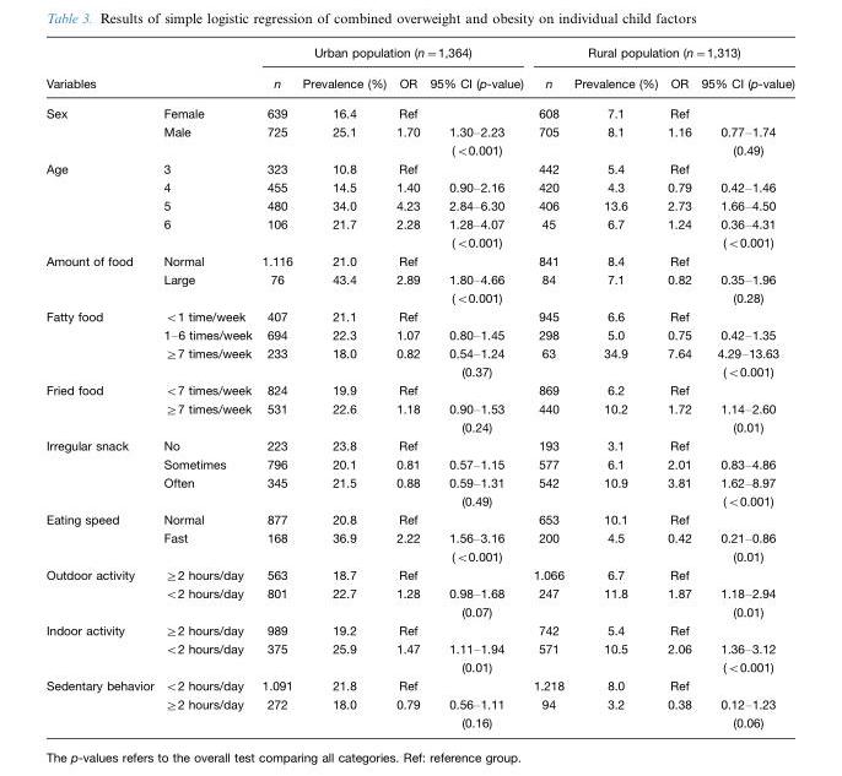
<table><thead><tr><td rowspan="2">Variables</td><td rowspan="2"></td><td colspan="4">Urban population (n=1,364)</td><td colspan="4">Rural population (n=1,313)</td></tr><tr><td>n</td><td>Prevalence (%)</td><td>OR</td><td>95% CI (p-value)</td><td>n</td><td>Prevalence (%)</td><td>OR</td><td>95% CI (p-value)</td></tr></thead><tbody><tr><td rowspan="3">Sex</td><td>Female</td><td>639</td><td>16.4</td><td>Ref</td><td></td><td>608</td><td>7.1</td><td>Ref</td><td></td></tr><tr><td>Male</td><td>725</td><td>25.1</td><td>1.70</td><td>1.30–2.23</td><td>705</td><td>8.1</td><td>1.16</td><td>0.77–1.74</td></tr><tr><td></td><td></td><td></td><td></td><td>(&lt;0.001)</td><td></td><td></td><td></td><td>(0.49)</td></tr><tr><td rowspan="5">Age</td><td>3</td><td>323</td><td>10.8</td><td>Ref</td><td></td><td>442</td><td>5.4</td><td>Ref</td><td></td></tr><tr><td>4</td><td>455</td><td>14.5</td><td>1.40</td><td>0.90–2.16</td><td>420</td><td>4.3</td><td>0.79</td><td>0.42–1.46</td></tr><tr><td>5</td><td>480</td><td>34.0</td><td>4.23</td><td>2.84–6.30</td><td>406</td><td>13.6</td><td>2.73</td><td>1.66–4.50</td></tr><tr><td>6</td><td>106</td><td>21.7</td><td>2.28</td><td>1.28–4.07</td><td>45</td><td>6.7</td><td>1.24</td><td>0.36–4.31</td></tr><tr><td></td><td></td><td></td><td></td><td>(&lt;0.001)</td><td></td><td></td><td></td><td>(&lt;0.001)</td></tr><tr><td rowspan="3">Amount of food</td><td>Normal</td><td>1.116</td><td>21.0</td><td>Ref</td><td></td><td>841</td><td>8.4</td><td>Ref</td><td></td></tr><tr><td>Large</td><td>76</td><td>43.4</td><td>2.89</td><td>1.80–4.66</td><td>84</td><td>7.1</td><td>0.82</td><td>0.35–1.96</td></tr><tr><td></td><td></td><td></td><td></td><td>(&lt;0.001)</td><td></td><td></td><td></td><td>(0.28)</td></tr><tr><td rowspan="4">Fatty food</td><td>&lt;1 time/week</td><td>407</td><td>21.1</td><td>Ref</td><td></td><td>945</td><td>6.6</td><td>Ref</td><td></td></tr><tr><td>1–6 times/week</td><td>694</td><td>22.3</td><td>1.07</td><td>0.80–1.45</td><td>298</td><td>5.0</td><td>0.75</td><td>0.42–1.35</td></tr><tr><td>≥7 times/week</td><td>233</td><td>18.0</td><td>0.82</td><td>0.54–1.24</td><td>63</td><td>34.9</td><td>7.64</td><td>4.29–13.63</td></tr><tr><td></td><td></td><td></td><td></td><td>(0.37)</td><td></td><td></td><td></td><td>(&lt;0.001)</td></tr><tr><td rowspan="3">Fried food</td><td>&lt;7 times/week</td><td>824</td><td>19.9</td><td>Ref</td><td></td><td>869</td><td>6.2</td><td>Ref</td><td></td></tr><tr><td>≥7 times/week</td><td>531</td><td>22.6</td><td>1.18</td><td>0.90–1.53</td><td>440</td><td>10.2</td><td>1.72</td><td>1.14–2.60</td></tr><tr><td></td><td></td><td></td><td></td><td>(0.24)</td><td></td><td></td><td></td><td>(0.01)</td></tr><tr><td rowspan="4">Irregular snack</td><td>No</td><td>223</td><td>23.8</td><td>Ref</td><td></td><td>193</td><td>3.1</td><td>Ref</td><td></td></tr><tr><td>Sometimes</td><td>796</td><td>20.1</td><td>0.81</td><td>0.57–1.15</td><td>577</td><td>6.1</td><td>2.01</td><td>0.83–4.86</td></tr><tr><td>Often</td><td>345</td><td>21.5</td><td>0.88</td><td>0.59–1.31</td><td>542</td><td>10.9</td><td>3.81</td><td>1.62–8.97</td></tr><tr><td></td><td></td><td></td><td></td><td>(0.49)</td><td></td><td></td><td></td><td>(&lt;0.001)</td></tr><tr><td rowspan="3">Eating speed</td><td>Normal</td><td>877</td><td>20.8</td><td>Ref</td><td></td><td>653</td><td>10.1</td><td>Ref</td><td></td></tr><tr><td>Fast</td><td>168</td><td>36.9</td><td>2.22</td><td>1.56–3.16</td><td>200</td><td>4.5</td><td>0.42</td><td>0.21–0.86</td></tr><tr><td></td><td></td><td></td><td></td><td>(&lt;0.001)</td><td></td><td></td><td></td><td>(0.01)</td></tr><tr><td rowspan="3">Outdoor activity</td><td>≥2 hours/day</td><td>563</td><td>18.7</td><td>Ref</td><td></td><td>1.066</td><td>6.7</td><td>Ref</td><td></td></tr><tr><td>&lt;2 hours/day</td><td>801</td><td>22.7</td><td>1.28</td><td>0.98–1.68</td><td>247</td><td>11.8</td><td>1.87</td><td>1.18–2.94</td></tr><tr><td></td><td></td><td></td><td></td><td>(0.07)</td><td></td><td></td><td></td><td>(0.01)</td></tr><tr><td rowspan="3">Indoor activity</td><td>≥2 hours/day</td><td>989</td><td>19.2</td><td>Ref</td><td></td><td>742</td><td>5.4</td><td>Ref</td><td></td></tr><tr><td>&lt;2 hours/day</td><td>375</td><td>25.9</td><td>1.47</td><td>1.11–1.94</td><td>571</td><td>10.5</td><td>2.06</td><td>1.36–3.12</td></tr><tr><td></td><td></td><td></td><td></td><td>(0.01)</td><td></td><td></td><td></td><td>(&lt;0.001)</td></tr><tr><td rowspan="3">Sedentary behavior</td><td>&lt;2 hours/day</td><td>1.091</td><td>21.8</td><td>Ref</td><td></td><td>1.218</td><td>8.0</td><td>Ref</td><td></td></tr><tr><td>≥2 hours/day</td><td>272</td><td>18.0</td><td>0.79</td><td>0.56–1.11</td><td>94</td><td>3.2</td><td>0.38</td><td>0.12–1.23</td></tr><tr><td></td><td></td><td></td><td></td><td>(0.16)</td><td></td><td></td><td></td><td>(0.06)</td></tr></tbody></table>